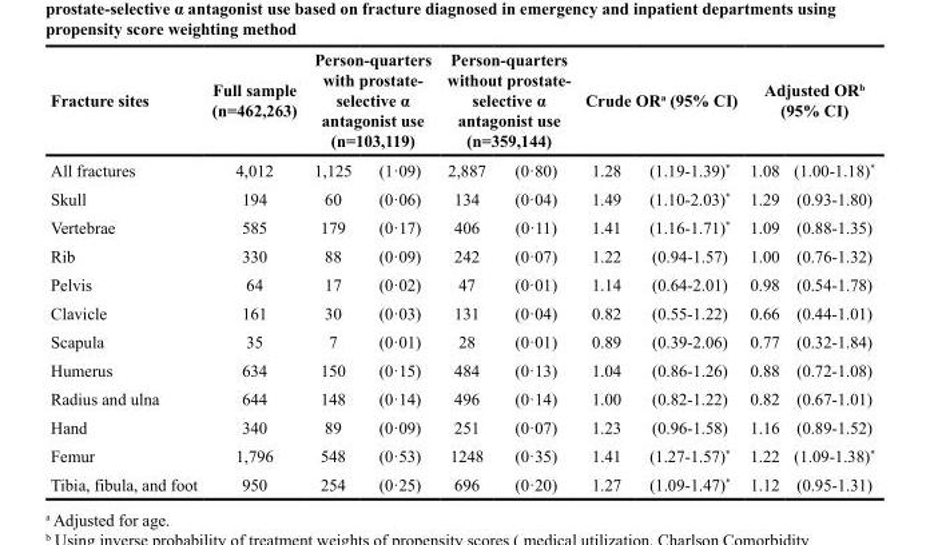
<table><thead><tr><td rowspan="2">Fracture sites All fractures</td><td rowspan="2">Full sample (n=462,263) 4,012</td><td colspan="2">Person-quarters with prostate- selective α antagonist use (n=103,119)</td><td colspan="2">Person-quarters without prostate- selective α antagonist use (n=359,144)</td><td colspan="2">Crude OR<sup>a</sup> (95% CI)</td><td colspan="2">Adjusted OR<sup>b</sup> (95% CI)</td></tr><tr><td>1,125</td><td>(1·09)</td><td>2,887</td><td>(0·80)</td><td>1.28</td><td>(1.19-1.39)*</td><td>1.08</td><td>(1.00-1.18)*</td></tr></thead><tbody><tr><td>Skull</td><td>194</td><td>60</td><td>(0·06)</td><td>134</td><td>(0·04)</td><td>1.49</td><td>(1.10-2.03)*</td><td>1.29</td><td>(0.93-1.80)</td></tr><tr><td>Vertebrae</td><td>585</td><td>179</td><td>(0·17)</td><td>406</td><td>(0·11)</td><td>1.41</td><td>(1.16-1.71)*</td><td>1.09</td><td>(0.88-1.35)</td></tr><tr><td>Rib</td><td>330</td><td>88</td><td>(0·09)</td><td>242</td><td>(0·07)</td><td>1.22</td><td>(0.94-1.57)</td><td>1.00</td><td>(0.76-1.32)</td></tr><tr><td>Pelvis</td><td>64</td><td>17</td><td>(0·02)</td><td>47</td><td>(0·01)</td><td>1.14</td><td>(0.64-2.01)</td><td>0.98</td><td>(0.54-1.78)</td></tr><tr><td>Clavicle</td><td>161</td><td>30</td><td>(0·03)</td><td>131</td><td>(0·04)</td><td>0.82</td><td>(0.55-1.22)</td><td>0.66</td><td>(0.44-1.01)</td></tr><tr><td>Scapula</td><td>35</td><td>7</td><td>(0·01)</td><td>28</td><td>(0·01)</td><td>0.89</td><td>(0.39-2.06)</td><td>0.77</td><td>(0.32-1.84)</td></tr><tr><td>Humerus</td><td>634</td><td>150</td><td>(0·15)</td><td>484</td><td>(0·13)</td><td>1.04</td><td>(0.86-1.26)</td><td>0.88</td><td>(0.72-1.08)</td></tr><tr><td>Radius and ulna</td><td>644</td><td>148</td><td>(0·14)</td><td>496</td><td>(0·14)</td><td>1.00</td><td>(0.82-1.22)</td><td>0.82</td><td>(0.67-1.01)</td></tr><tr><td>Hand</td><td>340</td><td>89</td><td>(0·09)</td><td>251</td><td>(0·07)</td><td>1.23</td><td>(0.96-1.58)</td><td>1.16</td><td>(0.89-1.52)</td></tr><tr><td>Femur</td><td>1,796</td><td>548</td><td>(0·53)</td><td>1248</td><td>(0·35)</td><td>1.41</td><td>(1.27-1.57)*</td><td>1.22</td><td>(1.09-1.38)*</td></tr><tr><td>Tibia, fibula, and foot</td><td>950</td><td>254</td><td>(0·25)</td><td>696</td><td>(0·20)</td><td>1.27</td><td>(1.09-1.47)*</td><td>1.12</td><td>(0.95-1.31)</td></tr></tbody></table>